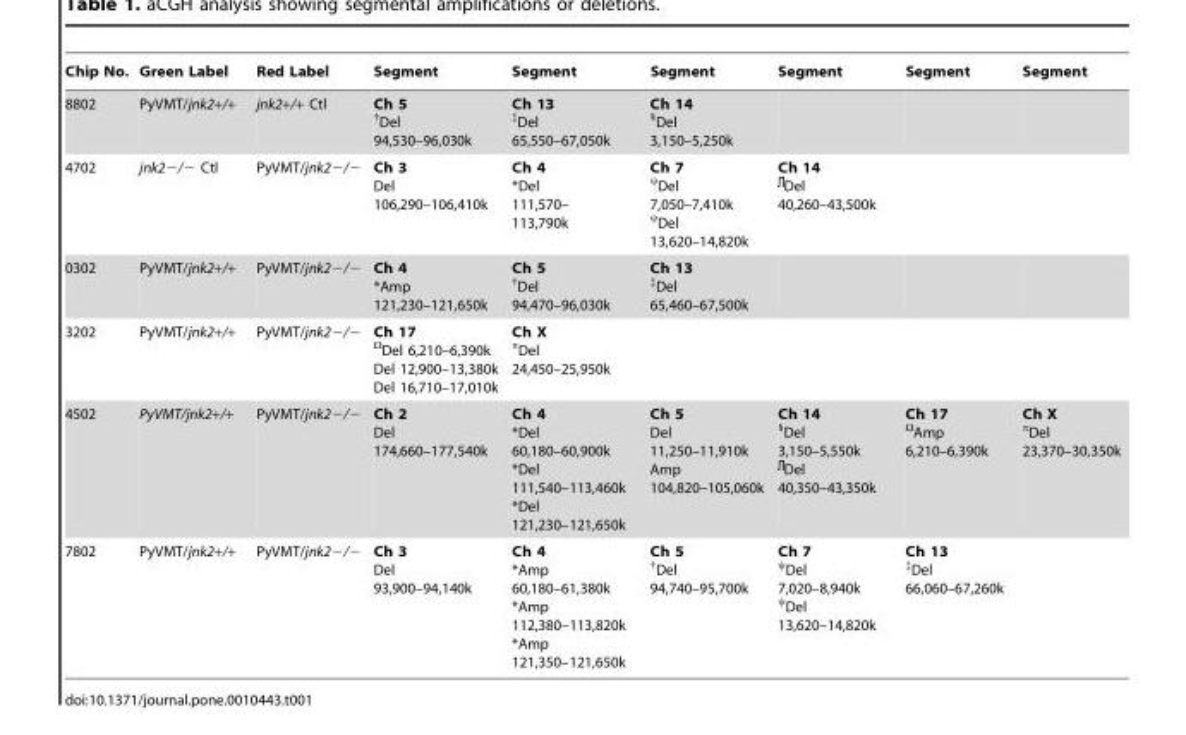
<table><thead><tr><td>Chip No.</td><td>Green Label</td><td>Red Label</td><td>Segment</td><td>Segment</td><td>Segment</td><td>Segment</td><td>Segment</td><td>Segment</td></tr></thead><tbody><tr><td>8802</td><td>PyVMT/jnk2+/+</td><td>jnk2+/+ Ctl</td><td>Ch 5 <sup>†</sup>Del 94,530–96,030k</td><td>Ch 13 <sup>‡</sup>Del 65,550–67,050k</td><td>Ch 14 <sup>§</sup>Del 3,150–5,250k</td><td></td><td></td><td></td></tr><tr><td>4702</td><td>jnk2−/− Ctl</td><td>PyVMT/jnk2−/−</td><td>Ch 3 Del 106,290–106,410k</td><td>Ch 4 *Del 111,570– 113,790k</td><td>Ch 7 <sup>ψ</sup>Del 7,050–7,410k <sup>ψ</sup>Del 13,620–14,820k</td><td>Ch 14 Del 40,260–43,500k</td><td></td><td></td></tr><tr><td>0302</td><td>PyVMT/jnk2+/+</td><td>PyVMT/jnk2−/−</td><td>Ch 4 *Amp 121,230–121,650k</td><td>Ch 5 <sup>†</sup>Del 94,470–96,030k</td><td>Ch 13 <sup>‡</sup>Del 65,460–67,500k</td><td></td><td></td><td></td></tr><tr><td>3202</td><td>PyVMT/jnk2+/+</td><td>PyVMT/jnk2−/−</td><td>Ch 17 <sup>Ω</sup>Del 6,210–6,390k Del 12,900–13,380k Del 16,710–17,010k</td><td>Ch X <sup>π</sup>Del 24,450–25,950k</td><td></td><td></td><td></td><td></td></tr><tr><td>4502</td><td>PyVMT/jnk2+/+</td><td>PyVMT/jnk2−/−</td><td>Ch 2 Del 174,660–177,540k</td><td>Ch 4 *Del 60,180–60,900k *Del 111,540–113,460k *Del 121,230–121,650k</td><td>Ch 5 Del 11,250–11,910k Amp 104,820–105,060k</td><td>Ch 14 1Del 3,150–5,550k Del 40,350–43,350k</td><td>Ch 17 <sup>Ω</sup>Amp 6,210–6,390k</td><td>Ch X <sup>π</sup>Del 23,370–30,350k</td></tr><tr><td>7802</td><td>PyVMT/jnk2+/+</td><td>PyVMT/jnk2−/−</td><td>Ch 3 Del 93,900–94,140k</td><td>Ch 4 *Amp 60,180–61,380k *Amp 112,380–113,820k *Amp 121,350–121,650k</td><td>Ch 5 <sup>†</sup>Del 94,740–95,700k</td><td>Ch 7 <sup>ψ</sup>Del 7,020–8,940k <sup>ψ</sup>Del 13,620–14,820k</td><td>Ch 13 <sup>‡</sup>Del 66,060–67,260k</td><td></td></tr></tbody></table>